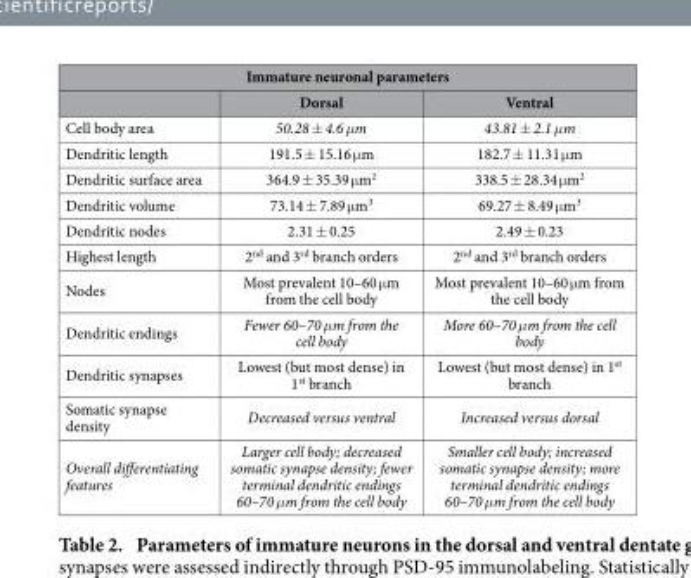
<table><thead><tr><td colspan="3">Immature neuronal parameters</td></tr><tr><td></td><td>Dorsal</td><td>Ventral</td></tr></thead><tbody><tr><td>Cell body area</td><td>50.28 ± 4.6 μm</td><td>43.81 ± 2.1 μm</td></tr><tr><td>Dendritic length</td><td>191.5 ± 15.16 μ m</td><td>182.7 ± 11.31 μ m</td></tr><tr><td>Dendritic surface area</td><td>364.9 ± 35.39 μ m<sup>2</sup></td><td>338.5 ± 28.34 μ m<sup>2</sup></td></tr><tr><td>Dendritic volume</td><td>73.14 ± 7.89 μ m<sup>3</sup></td><td>69.27 ± 8.49 μ m<sup>3</sup></td></tr><tr><td>Dendritic nodes</td><td>2.31 ± 0.25</td><td>2.49 ± 0.23</td></tr><tr><td>Highest length</td><td>2<sup>nd</sup> and 3<sup>rd</sup> branch orders</td><td>2<sup>nd</sup> and 3<sup>rd</sup> branch orders</td></tr><tr><td>Nodes</td><td>Most prevalent 10–60 μ m from the cell body</td><td>Most prevalent 10–60 μ m from the cell body</td></tr><tr><td>Dendritic endings</td><td>Fewer 60–70 μm from the cell body</td><td>More 60–70 μm from the cell body</td></tr><tr><td>Dendritic synapses</td><td>Lowest (but most dense) in 1<sup>st</sup> branch</td><td>Lowest (but most dense) in 1<sup>st</sup> branch</td></tr><tr><td>Somatic synapse density</td><td>Decreased versus ventral</td><td>Increased versus dorsal</td></tr><tr><td>Overall differentiating features</td><td>Larger cell body; decreased somatic synapse density; fewer terminal dendritic endings 60–70 μ m from the cell body</td><td>Smaller cell body; increased somatic synapse density; more terminal dendritic endings 60–70 μ m from the cell body</td></tr></tbody></table>